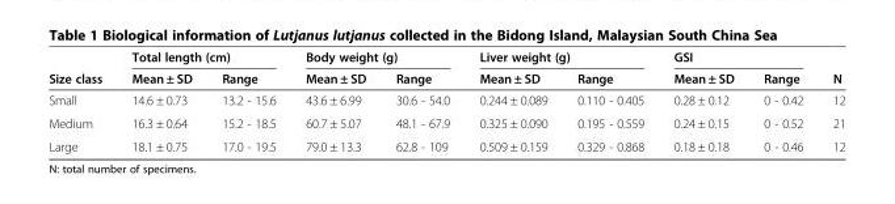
<table><thead><tr><td rowspan="2">Size class</td><td colspan="2">Total length (cm)</td><td colspan="2">Body weight (g)</td><td colspan="2">Liver weight (g)</td><td colspan="2">GSI</td><td rowspan="2">N</td></tr><tr><td>Mean ± SD</td><td>Range</td><td>Mean ± SD</td><td>Range</td><td>Mean ± SD</td><td>Range</td><td>Mean ± SD</td><td>Range</td></tr></thead><tbody><tr><td>Small</td><td>14.6 ± 0.73</td><td>13.2 - 15.6</td><td>43.6 ± 6.99</td><td>30.6 - 54.0</td><td>0.244 ± 0.089</td><td>0.110 - 0.405</td><td>0.28 ± 0.12</td><td>0 - 0.42</td><td>12</td></tr><tr><td>Medium</td><td>16.3 ± 0.64</td><td>15.2 - 18.5</td><td>60.7 ± 5.07</td><td>48.1 - 67.9</td><td>0.325 ± 0.090</td><td>0.195 - 0.559</td><td>0.24 ± 0.15</td><td>0 - 0.52</td><td>21</td></tr><tr><td>Large</td><td>18.1 ± 0.75</td><td>17.0 - 19.5</td><td>79.0 ± 13.3</td><td>62.8 - 109</td><td>0.509 ± 0.159</td><td>0.329 - 0.868</td><td>0.18 ± 0.18</td><td>0 - 0.46</td><td>12</td></tr></tbody></table>